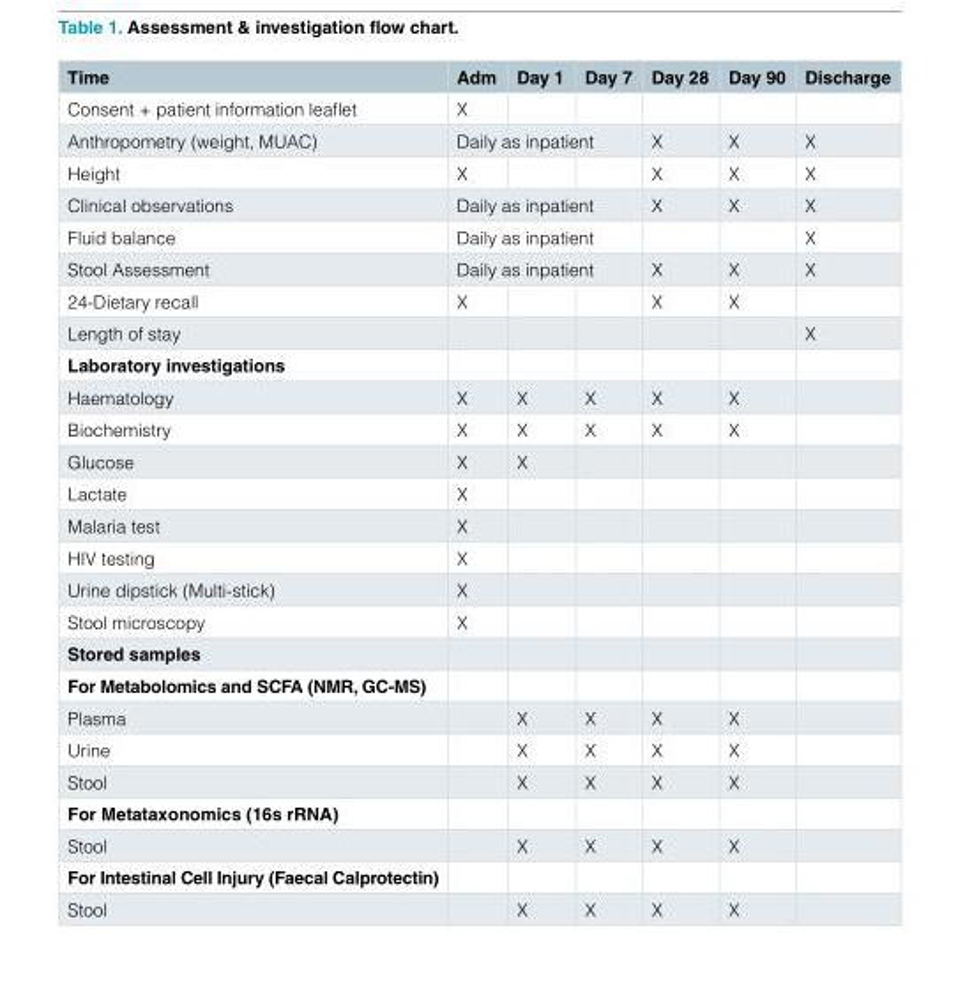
<table><thead><tr><td>Time</td><td>Adm</td><td>Day 1</td><td>Day 7</td><td>Day 28</td><td>Day 90</td><td>Discharge</td></tr></thead><tbody><tr><td>Consent + patient information leaflet</td><td>X</td><td></td><td></td><td></td><td></td><td></td></tr><tr><td>Anthropometry (weight, MUAC)</td><td colspan="3">Daily as inpatient</td><td>X</td><td>X</td><td>X</td></tr><tr><td>Height</td><td>X</td><td></td><td></td><td>X</td><td>X</td><td>X</td></tr><tr><td>Clinical observations</td><td colspan="3">Daily as inpatient</td><td>X</td><td>X</td><td>X</td></tr><tr><td>Fluid balance</td><td colspan="3">Daily as inpatient</td><td></td><td></td><td>X</td></tr><tr><td>Stool Assessment</td><td colspan="3">Daily as inpatient</td><td>X</td><td>X</td><td>X</td></tr><tr><td>24-Dietary recall</td><td>X</td><td></td><td></td><td>X</td><td>X</td><td></td></tr><tr><td>Length of stay</td><td></td><td></td><td></td><td></td><td></td><td>X</td></tr><tr><td colspan="7">Laboratory investigations</td></tr><tr><td>Haematology</td><td>X</td><td>X</td><td>X</td><td>X</td><td>X</td><td></td></tr><tr><td>Biochemistry</td><td>X</td><td>X</td><td>X</td><td>X</td><td>X</td><td></td></tr><tr><td>Glucose</td><td>X</td><td>X</td><td></td><td></td><td></td><td></td></tr><tr><td>Lactate</td><td>X</td><td></td><td></td><td></td><td></td><td></td></tr><tr><td>Malaria test</td><td>X</td><td></td><td></td><td></td><td></td><td></td></tr><tr><td>HIV testing</td><td>X</td><td></td><td></td><td></td><td></td><td></td></tr><tr><td>Urine dipstick (Multi-stick)</td><td>X</td><td></td><td></td><td></td><td></td><td></td></tr><tr><td>Stool microscopy</td><td>X</td><td></td><td></td><td></td><td></td><td></td></tr><tr><td colspan="7">Stored samples</td></tr><tr><td colspan="7">For Metabolomics and SCFA (NMR, GC-MS)</td></tr><tr><td>Plasma</td><td></td><td>X</td><td>X</td><td>X</td><td>X</td><td></td></tr><tr><td>Urine</td><td></td><td>X</td><td>X</td><td>X</td><td>X</td><td></td></tr><tr><td>Stool</td><td></td><td>X</td><td>X</td><td>X</td><td>X</td><td></td></tr><tr><td colspan="7">For Metataxonomics (16s rRNA)</td></tr><tr><td>Stool</td><td></td><td>X</td><td>X</td><td>X</td><td>X</td><td></td></tr><tr><td colspan="7">For Intestinal Cell Injury (Faecal Calprotectin)</td></tr><tr><td>Stool</td><td></td><td>X</td><td>X</td><td>X</td><td>X</td><td></td></tr></tbody></table>